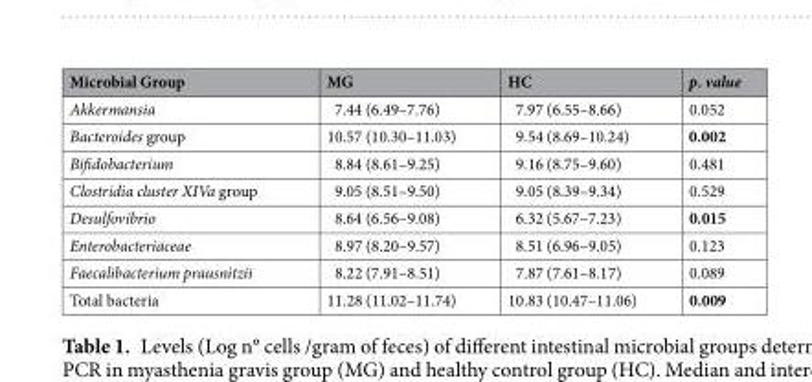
<table><thead><tr><td>Microbial Group</td><td>MG</td><td>HC</td><td>p. value</td></tr></thead><tbody><tr><td>Akkermansia</td><td>7.44 (6.49–7.76)</td><td>7.97 (6.55–8.66)</td><td>0.052</td></tr><tr><td>Bacteroides group</td><td>10.57 (10.30–11.03)</td><td>9.54 (8.69–10.24)</td><td>0.002</td></tr><tr><td>Bifidobacterium</td><td>8.84 (8.61–9.25)</td><td>9.16 (8.75–9.60)</td><td>0.481</td></tr><tr><td>Clostridia cluster XIVa group</td><td>9.05 (8.51–9.50)</td><td>9.05 (8.39–9.34)</td><td>0.529</td></tr><tr><td>Desulfovibrio</td><td>8.64 (6.56–9.08)</td><td>6.32 (5.67–7.23)</td><td>0.015</td></tr><tr><td>Enterobacteriaceae</td><td>8.97 (8.20–9.57)</td><td>8.51 (6.96–9.05)</td><td>0.123</td></tr><tr><td>Faecalibacterium prausnitzii</td><td>8.22 (7.91–8.51)</td><td>7.87 (7.61–8.17)</td><td>0.089</td></tr><tr><td>Total bacteria</td><td>11.28 (11.02–11.74)</td><td>10.83 (10.47–11.06)</td><td>0.009</td></tr></tbody></table>